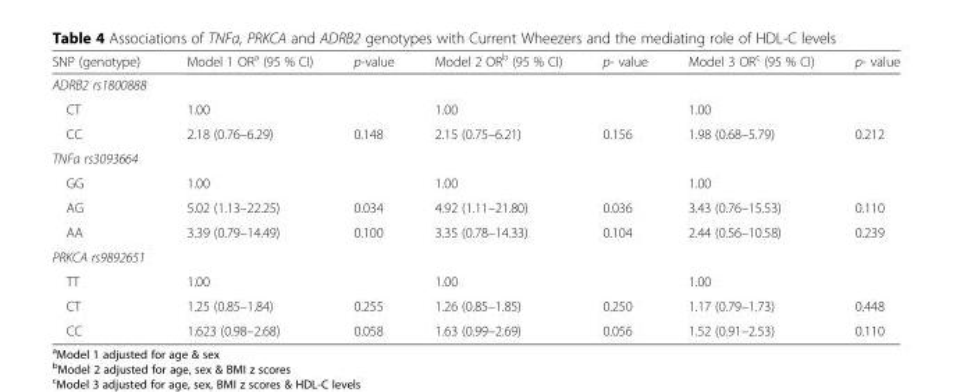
<table><thead><tr><td>SNP (genotype)</td><td>Model 1 OR<sup>a</sup> (95 % CI)</td><td>p-value</td><td>Model 2 OR<sup>b</sup> (95 % CI)</td><td>p- value</td><td>Model 3 OR<sup>c</sup> (95 % CI)</td><td>p- value</td></tr></thead><tbody><tr><td colspan="7">ADRB2 rs1800888</td></tr><tr><td>CT</td><td>1.00</td><td></td><td>1.00</td><td></td><td>1.00</td><td></td></tr><tr><td>CC</td><td>2.18 (0.76–6.29)</td><td>0.148</td><td>2.15 (0.75–6.21)</td><td>0.156</td><td>1.98 (0.68–5.79)</td><td>0.212</td></tr><tr><td colspan="7">TNFa rs3093664</td></tr><tr><td>GG</td><td>1.00</td><td></td><td>1.00</td><td></td><td>1.00</td><td></td></tr><tr><td>AG</td><td>5.02 (1.13–22.25)</td><td>0.034</td><td>4.92 (1.11–21.80)</td><td>0.036</td><td>3.43 (0.76–15.53)</td><td>0.110</td></tr><tr><td>AA</td><td>3.39 (0.79–14.49)</td><td>0.100</td><td>3.35 (0.78–14.33)</td><td>0.104</td><td>2.44 (0.56–10.58)</td><td>0.239</td></tr><tr><td colspan="7">PRKCA rs9892651</td></tr><tr><td>TT</td><td>1.00</td><td></td><td>1.00</td><td></td><td>1.00</td><td></td></tr><tr><td>CT</td><td>1.25 (0.85–1.84)</td><td>0.255</td><td>1.26 (0.85–1.85)</td><td>0.250</td><td>1.17 (0.79–1.73)</td><td>0.448</td></tr><tr><td>CC</td><td>1.623 (0.98–2.68)</td><td>0.058</td><td>1.63 (0.99–2.69)</td><td>0.056</td><td>1.52 (0.91–2.53)</td><td>0.110</td></tr></tbody></table>